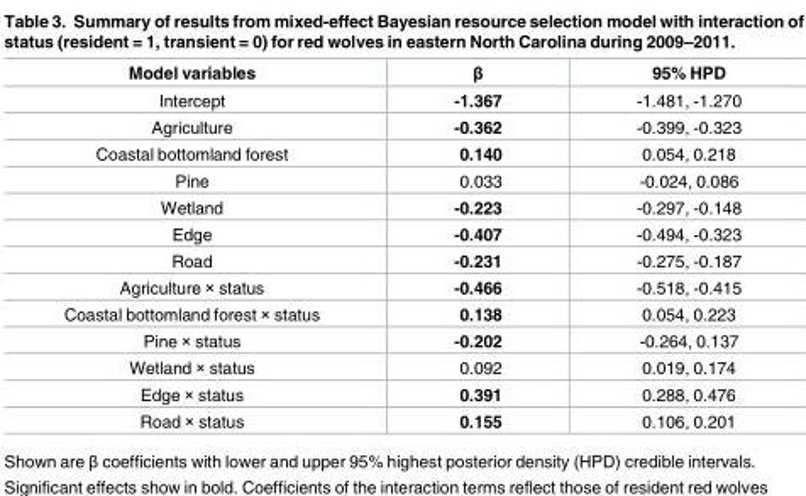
<table><thead><tr><td>Model variables</td><td>β</td><td>95% HPD</td></tr></thead><tbody><tr><td>Intercept</td><td>-1.367</td><td>-1.481, -1.270</td></tr><tr><td>Agriculture</td><td>-0.362</td><td>-0.399, -0.323</td></tr><tr><td>Coastal bottomland forest</td><td>0.140</td><td>0.054, 0.218</td></tr><tr><td>Pine</td><td>0.033</td><td>-0.024, 0.086</td></tr><tr><td>Wetland</td><td>-0.223</td><td>-0.297, -0.148</td></tr><tr><td>Edge</td><td>-0.407</td><td>-0.494, -0.323</td></tr><tr><td>Road</td><td>-0.231</td><td>-0.275, -0.187</td></tr><tr><td>Agriculture × status</td><td>-0.466</td><td>-0.518, -0.415</td></tr><tr><td>Coastal bottomland forest × status</td><td>0.138</td><td>0.054, 0.223</td></tr><tr><td>Pine × status</td><td>-0.202</td><td>-0.264, 0.137</td></tr><tr><td>Wetland × status</td><td>0.092</td><td>0.019, 0.174</td></tr><tr><td>Edge × status</td><td>0.391</td><td>0.288, 0.476</td></tr><tr><td>Road × status</td><td>0.155</td><td>0.106, 0.201</td></tr></tbody></table>